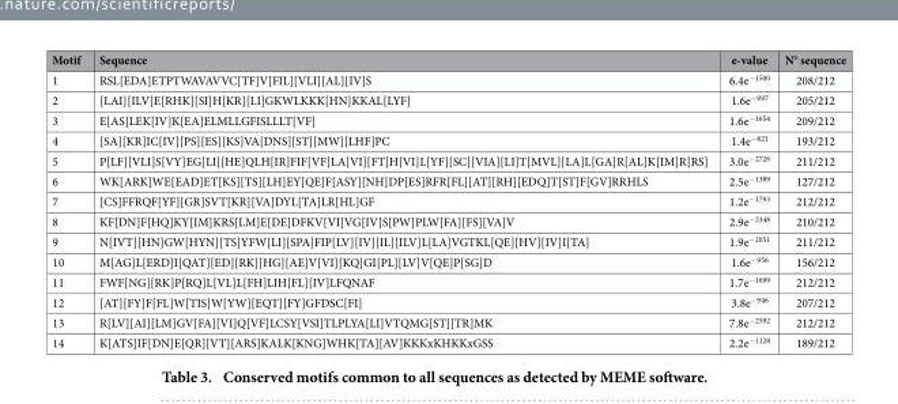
<table><thead><tr><td>Motif</td><td>Sequence</td><td>e-value</td><td>N° sequence</td></tr></thead><tbody><tr><td>1</td><td>RSL[EDA]ETPTWAVAVVC[TF]V[FIL][VLI][AL][IV]S</td><td>6.4e<sup>−1500</sup></td><td>208/212</td></tr><tr><td>2</td><td>[LAI][ILV]E[RHK][SI]H[KR][LI]GKWLKKK[HN]KKAL[LYF]</td><td>1.6e<sup>−997</sup></td><td>205/212</td></tr><tr><td>3</td><td>E[AS]LEK[IV]K[EA]ELMLLGFISLLLT[VF]</td><td>1.6e<sup>−1654</sup></td><td>209/212</td></tr><tr><td>4</td><td>[SA][KR]IC[IV][PS][ES][KS]VA[DNS][ST][MW][LHF]PC</td><td>1.4e<sup>−821</sup></td><td>193/212</td></tr><tr><td>5</td><td>P[LF][VLI]S[VY]EG[LI][HE]QLH[IR]FIF[VF]LA[VI][FT]H[VI]L[YF][SC][VIA][LI]T[MVL][LA]L[GA]R[AL]K[IM]R[RS]</td><td>3.0e<sup>−2726</sup></td><td>211/212</td></tr><tr><td>6</td><td>WK[ARK]WE[EAD]ET[KS][TS][LH]EY[QE]F[ASY][NH]DP[ES]RFR[FL][AT][RH][EDQ]T[ST]F[GV]RRHLS</td><td>2.5e<sup>−1389</sup></td><td>127/212</td></tr><tr><td>7</td><td>[CS]FFRQF[YF][GR]SVT[KR][VA]DYL[TA]LR[HL]GF</td><td>1.2e<sup>−1793</sup></td><td>212/212</td></tr><tr><td>8</td><td>KF[DN]F[HQ]KY[IM]KRS[LM]E[DE]DFKV[VI]VG[IV]S[PW]PLW[FA][FS][VA]V</td><td>2.9e<sup>−2348</sup></td><td>210/212</td></tr><tr><td>9</td><td>N[IVT][HN]GW[HYN][TS]YFW[LI][SPA]FIP[LV][IV][IL][ILV]L[LA]VGTKL[QE][HV][IV]I[TA]</td><td>1.9e<sup>−2051</sup></td><td>211/212</td></tr><tr><td>10</td><td>M[AG]L[ERD]I[QAT][ED][RK][HG][AE]V[VI][KQ]GI[PL][LV]V[QE]P[SG]D</td><td>1.6e<sup>−956</sup></td><td>156/212</td></tr><tr><td>11</td><td>FWF[NG][RK]P[RQ]L[VL]L[FH]LIH[FL][IV]LFQNAF</td><td>1.7e<sup>−1699</sup></td><td>212/212</td></tr><tr><td>12</td><td>[AT][FY]F[FL]W[TIS]W[YW][EQT][FY]GFDSC[FI]</td><td>3.8e<sup>−946</sup></td><td>207/212</td></tr><tr><td>13</td><td>R[LV][AI][LM]GV[FA][VI]Q[VF]LCSY[VSI]TLPLYA[LI]VTQMG[ST][TR]MK</td><td>7.8e<sup>−2592</sup></td><td>212/212</td></tr><tr><td>14</td><td>K[ATS]IF[DN]E[QR][VT][ARS]KALK[KNG]WHK[TA][AV]KKKxKHKKxGSS</td><td>2.2e<sup>−1128</sup></td><td>189/212</td></tr></tbody></table>